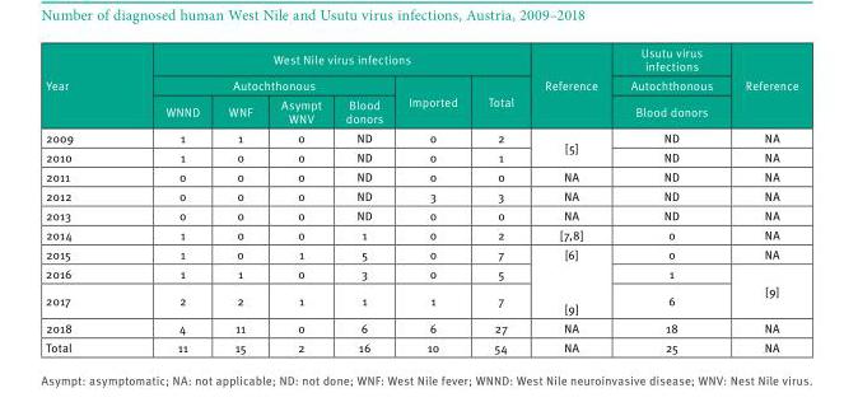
<table><thead><tr><td rowspan="3">Year</td><td colspan="6">West Nile virus infections</td><td rowspan="3">Reference</td><td rowspan="3">Usutu virus infections Autochthonous Blood donors</td><td rowspan="3">Reference</td></tr><tr><td colspan="4">Autochthonous</td><td rowspan="2">Imported</td><td rowspan="2">Total</td></tr><tr><td>WNND</td><td>WNF</td><td>Asympt WNV</td><td>Blood donors</td></tr></thead><tbody><tr><td>2009</td><td>1</td><td>1</td><td>0</td><td>ND</td><td>0</td><td>2</td><td rowspan="2">[5]</td><td>ND</td><td>NA</td></tr><tr><td>2010</td><td>1</td><td>0</td><td>0</td><td>ND</td><td>0</td><td>1</td><td>ND</td><td>NA</td></tr><tr><td>2011</td><td>0</td><td>0</td><td>0</td><td>ND</td><td>0</td><td>0</td><td>NA</td><td>ND</td><td>NA</td></tr><tr><td>2012</td><td>0</td><td>0</td><td>0</td><td>ND</td><td>3</td><td>3</td><td>NA</td><td>ND</td><td>NA</td></tr><tr><td>2013</td><td>0</td><td>0</td><td>0</td><td>ND</td><td>0</td><td>0</td><td>NA</td><td>ND</td><td>NA</td></tr><tr><td>2014</td><td>1</td><td>0</td><td>0</td><td>1</td><td>0</td><td>2</td><td>[7,8]</td><td>0</td><td>NA</td></tr><tr><td>2015</td><td>1</td><td>0</td><td>1</td><td>5</td><td>0</td><td>7</td><td rowspan="3">[6] [9]</td><td>0</td><td>NA</td></tr><tr><td>2016</td><td>1</td><td>1</td><td>0</td><td>3</td><td>0</td><td>5</td><td>1</td><td rowspan="2">[9]</td></tr><tr><td>2017</td><td>2</td><td>2</td><td>1</td><td>1</td><td>1</td><td>7</td><td>6</td></tr><tr><td>2018</td><td>4</td><td>11</td><td>0</td><td>6</td><td>6</td><td>27</td><td>NA</td><td>18</td><td>NA</td></tr><tr><td>Total</td><td>11</td><td>15</td><td>2</td><td>16</td><td>10</td><td>54</td><td>NA</td><td>25</td><td>NA</td></tr></tbody></table>